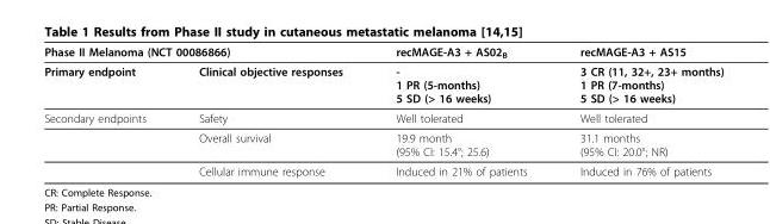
<table><thead><tr><td colspan="2">Phase II Melanoma (NCT 00086866)</td><td rowspan="2">recMAGE-A3 + AS02B - 1 PR (5-months) 5 SD (&gt; 16 weeks)</td><td rowspan="2">recMAGE-A3 + AS15 3 CR (11, 32+, 23+ months) 1 PR (7-months) 5 SD (&gt; 16 weeks)</td></tr><tr><td>Primary endpoint</td><td>Clinical objective responses</td></tr></thead><tbody><tr><td rowspan="3">Secondary endpoints</td><td>Safety</td><td>Well tolerated</td><td>Well tolerated</td></tr><tr><td>Overall survival</td><td>19.9 month (95% CI: 15.4°; 25.6)</td><td>31.1 months (95% CI: 20.0°; NR)</td></tr><tr><td>Cellular immune response</td><td>Induced in 21% of patients</td><td>Induced in 76% of patients</td></tr></tbody></table>